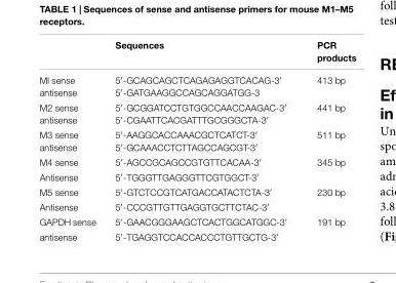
<table><thead><tr><td></td><td>Sequences</td><td>PCR products</td></tr></thead><tbody><tr><td>Ml sense antisense</td><td>5′-GCAGCAGCTCAGAGAGGTCACAG-3′ 5′-GATGAAGGCCAGCAGGATGG-3</td><td>413 bp</td></tr><tr><td>M2 sense antisense</td><td>5′-GCGGATCCTGTGGCCAACCAAGAC-3′ 5′-CGAATTCACGATTTGCGGGCTA-3′</td><td>441 bp</td></tr><tr><td>M3 sense antisense</td><td>5′-AAGGCACCAAACGCTCATCT-3′ 5′-GCAAACCTCTTAGCCAGCGT-3′</td><td>511 bp</td></tr><tr><td>M4 sense</td><td>5′-AGCCGCAGCCGTGTTCACAA-3′</td><td>345 bp</td></tr><tr><td>Antisense</td><td>5′-TGGGTTGAGGGTTCGTGGCT-3′</td><td></td></tr><tr><td>M5 sense</td><td>5′-GTCTCCGTCATGACCATACTCTA-3′</td><td>230 bp</td></tr><tr><td>Antisense</td><td>5′-CCCGTTGTTGAGGTGCTTCTAC-3′</td><td></td></tr><tr><td>GAPDH sense</td><td>5′-GAACGGGAAGCTCACTGGCATGGC-3′</td><td>191 bp</td></tr><tr><td>antisense</td><td>5′-TGAGGTCCACCACCCTGTTGCTG-3′</td><td></td></tr></tbody></table>